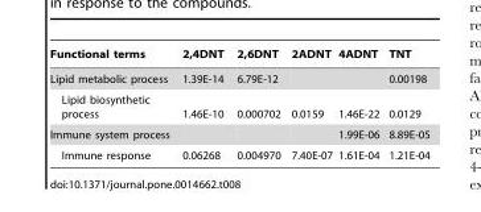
<table><thead><tr><td>Functional terms</td><td>2,4DNT</td><td>2,6DNT</td><td>2ADNT</td><td>4ADNT</td><td>TNT</td></tr></thead><tbody><tr><td>Lipid metabolic process</td><td>1.39E-14</td><td>6.79E-12</td><td></td><td></td><td>0.00198</td></tr><tr><td>Lipid biosynthetic process</td><td>1.46E-10</td><td>0.000702</td><td>0.0159</td><td>1.46E-22</td><td>0.0129</td></tr><tr><td>Immune system process</td><td></td><td></td><td></td><td>1.99E-06</td><td>8.89E-05</td></tr><tr><td>Immune response</td><td>0.06268</td><td>0.004970</td><td>7.40E-07</td><td>1.61E-04</td><td>1.21E-04</td></tr></tbody></table>